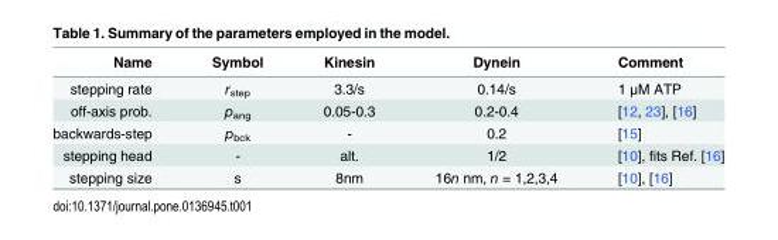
<table><thead><tr><td>Name</td><td>Symbol</td><td>Kinesin</td><td>Dynein</td><td>Comment</td></tr></thead><tbody><tr><td>stepping rate</td><td>r<sub>step</sub></td><td>3.3/s</td><td>0.14/s</td><td>1 µM ATP</td></tr><tr><td>off-axis prob.</td><td>p<sub>ang</sub></td><td>0.05-0.3</td><td>0.2-0.4</td><td>[12, 23], [16]</td></tr><tr><td>backwards-step</td><td>p<sub>bck</sub></td><td>-</td><td>0.2</td><td>[15]</td></tr><tr><td>stepping head</td><td>-</td><td>alt.</td><td>1/2</td><td>[10], fits Ref. [16]</td></tr><tr><td>stepping size</td><td>s</td><td>8nm</td><td>16n nm, n = 1,2,3,4</td><td>[10], [16]</td></tr></tbody></table>